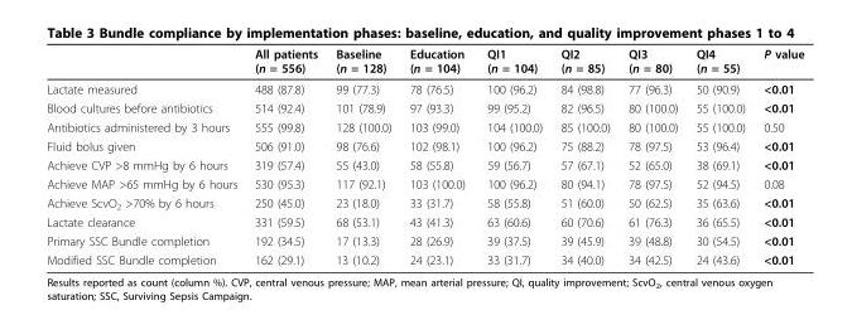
<table><thead><tr><td></td><td>All patients (n = 556)</td><td>Baseline (n = 128)</td><td>Education (n = 104)</td><td>QI1 (n = 104)</td><td>QI2 (n = 85)</td><td>QI3 (n = 80)</td><td>QI4 (n = 55)</td><td>P value</td></tr></thead><tbody><tr><td>Lactate measured</td><td>488 (87.8)</td><td>99 (77.3)</td><td>78 (76.5)</td><td>100 (96.2)</td><td>84 (98.8)</td><td>77 (96.3)</td><td>50 (90.9)</td><td>&lt;0.01</td></tr><tr><td>Blood cultures before antibiotics</td><td>514 (92.4)</td><td>101 (78.9)</td><td>97 (93.3)</td><td>99 (95.2)</td><td>82 (96.5)</td><td>80 (100.0)</td><td>55 (100.0)</td><td>&lt;0.01</td></tr><tr><td>Antibiotics administered by 3 hours</td><td>555 (99.8)</td><td>128 (100.0)</td><td>103 (99.0)</td><td>104 (100.0)</td><td>85 (100.0)</td><td>80 (100.0)</td><td>55 (100.0)</td><td>0.50</td></tr><tr><td>Fluid bolus given</td><td>506 (91.0)</td><td>98 (76.6)</td><td>102 (98.1)</td><td>100 (96.2)</td><td>75 (88.2)</td><td>78 (97.5)</td><td>53 (96.4)</td><td>&lt;0.01</td></tr><tr><td>Achieve CVP &gt;8 mmHg by 6 hours</td><td>319 (57.4)</td><td>55 (43.0)</td><td>58 (55.8)</td><td>59 (56.7)</td><td>57 (67.1)</td><td>52 (65.0)</td><td>38 (69.1)</td><td>&lt;0.01</td></tr><tr><td>Achieve MAP &gt;65 mmHg by 6 hours</td><td>530 (95.3)</td><td>117 (92.1)</td><td>103 (100.0)</td><td>100 (96.2)</td><td>80 (94.1)</td><td>78 (97.5)</td><td>52 (94.5)</td><td>0.08</td></tr><tr><td>Achieve ScvO<sub>2</sub> &gt;70% by 6 hours</td><td>250 (45.0)</td><td>23 (18.0)</td><td>33 (31.7)</td><td>58 (55.8)</td><td>51 (60.0)</td><td>50 (62.5)</td><td>35 (63.6)</td><td>&lt;0.01</td></tr><tr><td>Lactate clearance</td><td>331 (59.5)</td><td>68 (53.1)</td><td>43 (41.3)</td><td>63 (60.6)</td><td>60 (70.6)</td><td>61 (76.3)</td><td>36 (65.5)</td><td>&lt;0.01</td></tr><tr><td>Primary SSC Bundle completion</td><td>192 (34.5)</td><td>17 (13.3)</td><td>28 (26.9)</td><td>39 (37.5)</td><td>39 (45.9)</td><td>39 (48.8)</td><td>30 (54.5)</td><td>&lt;0.01</td></tr><tr><td>Modified SSC Bundle completion</td><td>162 (29.1)</td><td>13 (10.2)</td><td>24 (23.1)</td><td>33 (31.7)</td><td>34 (40.0)</td><td>34 (42.5)</td><td>24 (43.6)</td><td>&lt;0.01</td></tr></tbody></table>